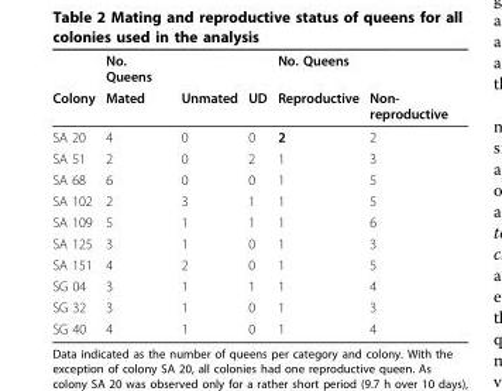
<table><thead><tr><td rowspan="2">Colony</td><td rowspan="2">No. Queens Mated</td><td rowspan="2">Unmated</td><td rowspan="2">UD</td><td rowspan="2">No. Queens Reproductive</td><td rowspan="2">Non- reproductive</td></tr><tr></tr></thead><tbody><tr><td>SA 20</td><td>4</td><td>0</td><td>0</td><td>2</td><td>2</td></tr><tr><td>SA 51</td><td>2</td><td>0</td><td>2</td><td>1</td><td>3</td></tr><tr><td>SA 68</td><td>6</td><td>0</td><td>0</td><td>1</td><td>5</td></tr><tr><td>SA 102</td><td>2</td><td>3</td><td>1</td><td>1</td><td>5</td></tr><tr><td>SA 109</td><td>5</td><td>1</td><td>1</td><td>1</td><td>6</td></tr><tr><td>SA 125</td><td>3</td><td>1</td><td>0</td><td>1</td><td>3</td></tr><tr><td>SA 151</td><td>4</td><td>2</td><td>0</td><td>1</td><td>5</td></tr><tr><td>SG 04</td><td>3</td><td>1</td><td>1</td><td>1</td><td>4</td></tr><tr><td>SG 32</td><td>3</td><td>1</td><td>0</td><td>1</td><td>3</td></tr><tr><td>SG 40</td><td>4</td><td>1</td><td>0</td><td>1</td><td>4</td></tr></tbody></table>